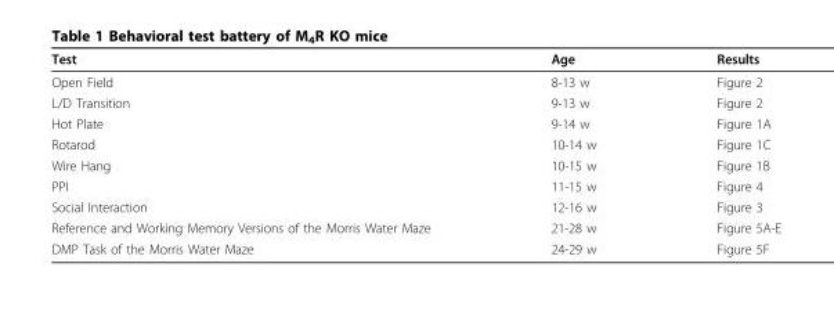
<table><thead><tr><td>Test</td><td>Age</td><td>Results</td></tr></thead><tbody><tr><td>Open Field</td><td>8-13 w</td><td>Figure 2</td></tr><tr><td>L/D Transition</td><td>9-13 w</td><td>Figure 2</td></tr><tr><td>Hot Plate</td><td>9-14 w</td><td>Figure 1A</td></tr><tr><td>Rotarod</td><td>10-14 w</td><td>Figure 1C</td></tr><tr><td>Wire Hang</td><td>10-15 w</td><td>Figure 1B</td></tr><tr><td>PPI</td><td>11-15 w</td><td>Figure 4</td></tr><tr><td>Social Interaction</td><td>12-16 w</td><td>Figure 3</td></tr><tr><td>Reference and Working Memory Versions of the Morris Water Maze</td><td>21-28 w</td><td>Figure 5A-E</td></tr><tr><td>DMP Task of the Morris Water Maze</td><td>24-29 w</td><td>Figure 5F</td></tr></tbody></table>